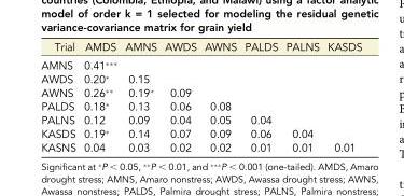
<table><thead><tr><td>Trial</td><td>AMDS</td><td>AMNS</td><td>AWDS</td><td>AWNS</td><td>PALDS</td><td>PALNS</td><td>KASDS</td></tr></thead><tbody><tr><td>AMNS</td><td>0.41***</td><td></td><td></td><td></td><td></td><td></td><td></td></tr><tr><td>AWDS</td><td>0.20*</td><td>0.15</td><td></td><td></td><td></td><td></td><td></td></tr><tr><td>AWNS</td><td>0.26**</td><td>0.19*</td><td>0.09</td><td></td><td></td><td></td><td></td></tr><tr><td>PALDS</td><td>0.18*</td><td>0.13</td><td>0.06</td><td>0.08</td><td></td><td></td><td></td></tr><tr><td>PALNS</td><td>0.12</td><td>0.09</td><td>0.04</td><td>0.05</td><td>0.04</td><td></td><td></td></tr><tr><td>KASDS</td><td>0.19*</td><td>0.14</td><td>0.07</td><td>0.09</td><td>0.06</td><td>0.04</td><td></td></tr><tr><td>KASNS</td><td>0.04</td><td>0.03</td><td>0.02</td><td>0.02</td><td>0.01</td><td>0.01</td><td>0.01</td></tr></tbody></table>